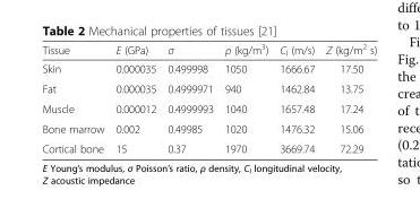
<table><thead><tr><td>Tissue</td><td>E (GPa)</td><td>σ</td><td>ρ (kg/m<sup>3</sup>)</td><td>C<sub>l</sub> (m/s)</td><td>Z (kg/m<sup>2</sup> s)</td></tr></thead><tbody><tr><td>Skin</td><td>0.000035</td><td>0.499998</td><td>1050</td><td>1666.67</td><td>17.50</td></tr><tr><td>Fat</td><td>0.000035</td><td>0.4999971</td><td>940</td><td>1462.84</td><td>13.75</td></tr><tr><td>Muscle</td><td>0.000012</td><td>0.4999993</td><td>1040</td><td>1657.48</td><td>17.24</td></tr><tr><td>Bone marrow</td><td>0.002</td><td>0.49985</td><td>1020</td><td>1476.32</td><td>15.06</td></tr><tr><td>Cortical bone</td><td>15</td><td>0.37</td><td>1970</td><td>3669.74</td><td>72.29</td></tr></tbody></table>